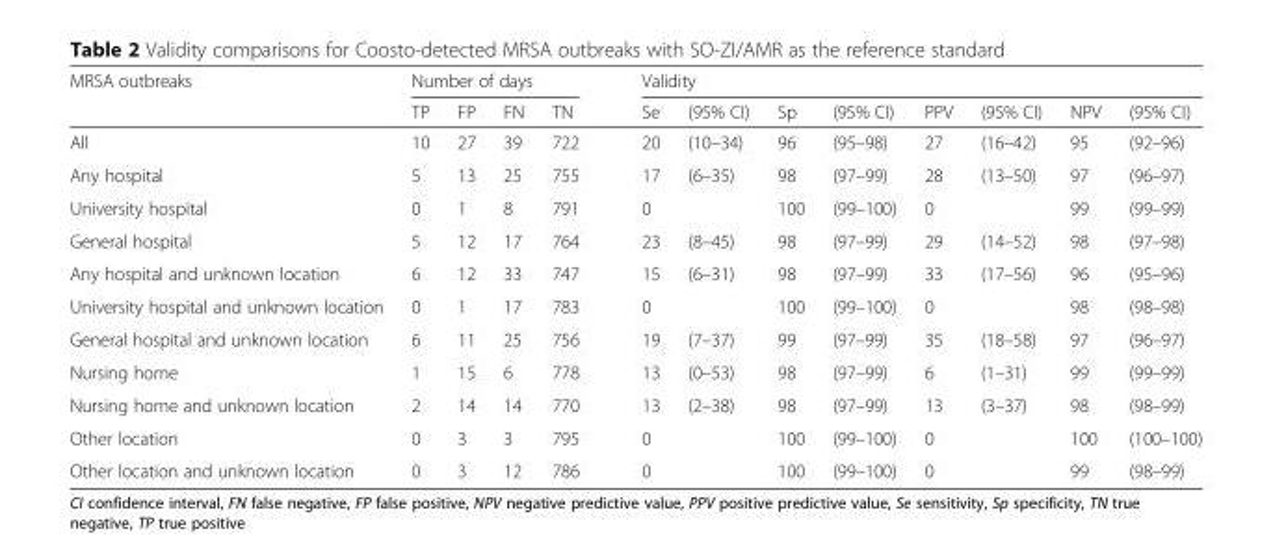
<table><thead><tr><td rowspan="2">MRSA outbreaks</td><td colspan="4">Number of days</td><td colspan="8">Validity</td></tr><tr><td>TP</td><td>FP</td><td>FN</td><td>TN</td><td>Se</td><td>(95% CI)</td><td>Sp</td><td>(95% CI)</td><td>PPV</td><td>(95% CI)</td><td>NPV</td><td>(95% CI)</td></tr></thead><tbody><tr><td>All</td><td>10</td><td>27</td><td>39</td><td>722</td><td>20</td><td>(10–34)</td><td>96</td><td>(95–98)</td><td>27</td><td>(16–42)</td><td>95</td><td>(92–96)</td></tr><tr><td>Any hospital</td><td>5</td><td>13</td><td>25</td><td>755</td><td>17</td><td>(6–35)</td><td>98</td><td>(97–99)</td><td>28</td><td>(13–50)</td><td>97</td><td>(96–97)</td></tr><tr><td>University hospital</td><td>0</td><td>1</td><td>8</td><td>791</td><td>0</td><td></td><td>100</td><td>(99–100)</td><td>0</td><td></td><td>99</td><td>(99–99)</td></tr><tr><td>General hospital</td><td>5</td><td>12</td><td>17</td><td>764</td><td>23</td><td>(8–45)</td><td>98</td><td>(97–99)</td><td>29</td><td>(14–52)</td><td>98</td><td>(97–98)</td></tr><tr><td>Any hospital and unknown location</td><td>6</td><td>12</td><td>33</td><td>747</td><td>15</td><td>(6–31)</td><td>98</td><td>(97–99)</td><td>33</td><td>(17–56)</td><td>96</td><td>(95–96)</td></tr><tr><td>University hospital and unknown location</td><td>0</td><td>1</td><td>17</td><td>783</td><td>0</td><td></td><td>100</td><td>(99–100)</td><td>0</td><td></td><td>98</td><td>(98–98)</td></tr><tr><td>General hospital and unknown location</td><td>6</td><td>11</td><td>25</td><td>756</td><td>19</td><td>(7–37)</td><td>99</td><td>(97–99)</td><td>35</td><td>(18–58)</td><td>97</td><td>(96–97)</td></tr><tr><td>Nursing home</td><td>1</td><td>15</td><td>6</td><td>778</td><td>13</td><td>(0–53)</td><td>98</td><td>(97–99)</td><td>6</td><td>(1–31)</td><td>99</td><td>(99–99)</td></tr><tr><td>Nursing home and unknown location</td><td>2</td><td>14</td><td>14</td><td>770</td><td>13</td><td>(2–38)</td><td>98</td><td>(97–99)</td><td>13</td><td>(3–37)</td><td>98</td><td>(98–99)</td></tr><tr><td>Other location</td><td>0</td><td>3</td><td>3</td><td>795</td><td>0</td><td></td><td>100</td><td>(99–100)</td><td>0</td><td></td><td>100</td><td>(100–100)</td></tr><tr><td>Other location and unknown location</td><td>0</td><td>3</td><td>12</td><td>786</td><td>0</td><td></td><td>100</td><td>(99–100)</td><td>0</td><td></td><td>99</td><td>(98–99)</td></tr></tbody></table>